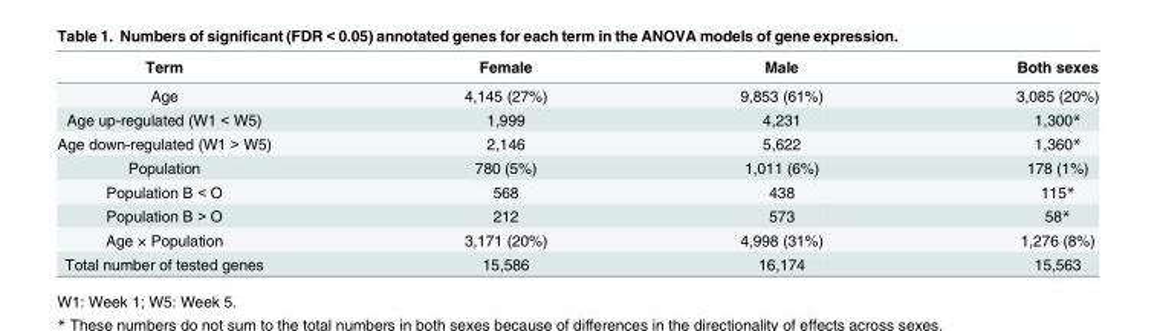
<table><thead><tr><td>Term</td><td>Female</td><td>Male</td><td>Both sexes</td></tr></thead><tbody><tr><td>Age</td><td>4,145 (27%)</td><td>9,853 (61%)</td><td>3,085 (20%)</td></tr><tr><td>Age up-regulated (W1 &lt; W5)</td><td>1,999</td><td>4,231</td><td>1,300*</td></tr><tr><td>Age down-regulated (W1 &gt; W5)</td><td>2,146</td><td>5,622</td><td>1,360*</td></tr><tr><td>Population</td><td>780 (5%)</td><td>1,011 (6%)</td><td>178 (1%)</td></tr><tr><td>Population B &lt; O</td><td>568</td><td>438</td><td>115*</td></tr><tr><td>Population B &gt; O</td><td>212</td><td>573</td><td>58*</td></tr><tr><td>Age × Population</td><td>3,171 (20%)</td><td>4,998 (31%)</td><td>1,276 (8%)</td></tr><tr><td>Total number of tested genes</td><td>15,586</td><td>16,174</td><td>15,563</td></tr></tbody></table>